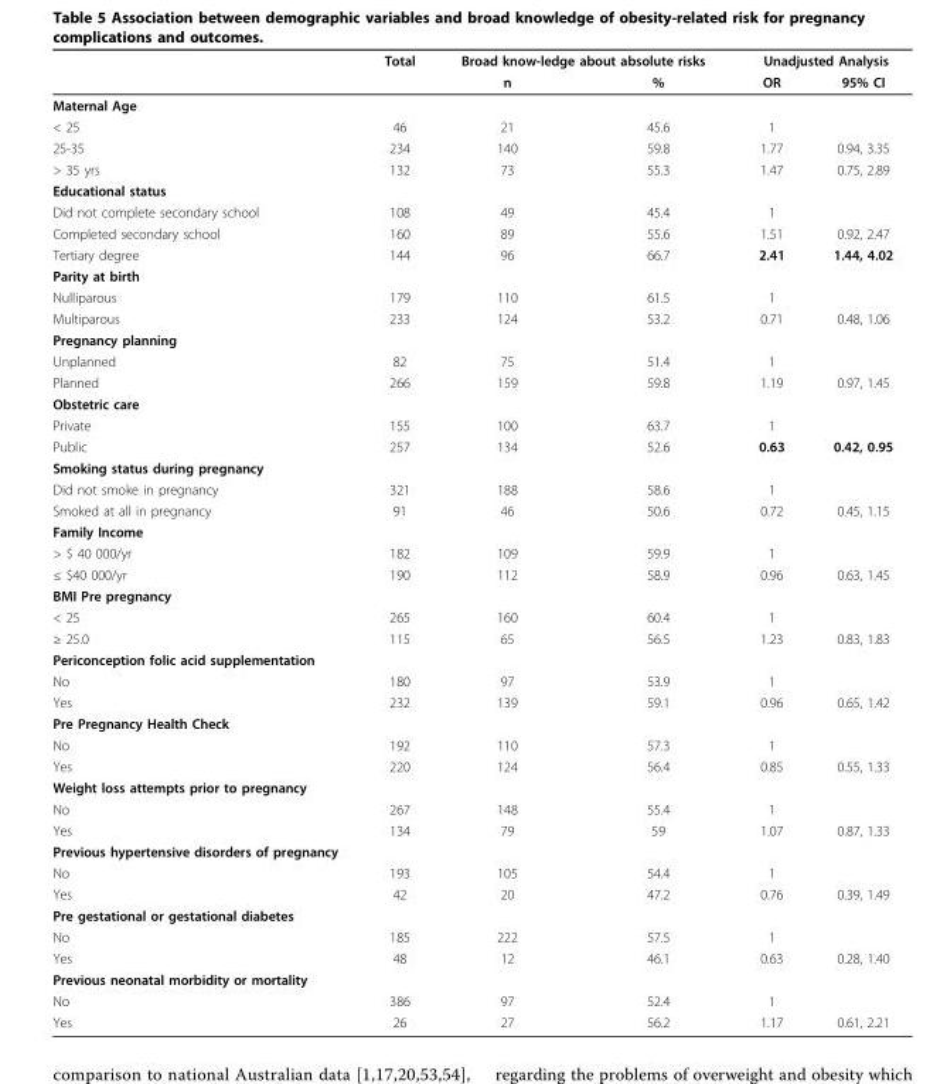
<table><thead><tr><td rowspan="2"></td><td rowspan="2">Total</td><td colspan="2">Broad know-ledge about absolute risks</td><td colspan="2">Unadjusted Analysis</td></tr><tr><td>n</td><td>%</td><td>OR</td><td>95% CI</td></tr></thead><tbody><tr><td colspan="6">Maternal Age</td></tr><tr><td>&lt; 25</td><td>46</td><td>21</td><td>45.6</td><td>1</td><td></td></tr><tr><td>25-35</td><td>234</td><td>140</td><td>59.8</td><td>1.77</td><td>0.94, 3.35</td></tr><tr><td>&gt; 35 yrs</td><td>132</td><td>73</td><td>55.3</td><td>1.47</td><td>0.75, 2.89</td></tr><tr><td colspan="6">Educational status</td></tr><tr><td>Did not complete secondary school</td><td>108</td><td>49</td><td>45.4</td><td>1</td><td></td></tr><tr><td>Completed secondary school</td><td>160</td><td>89</td><td>55.6</td><td>1.51</td><td>0.92, 2.47</td></tr><tr><td>Tertiary degree</td><td>144</td><td>96</td><td>66.7</td><td>2.41</td><td>1.44, 4.02</td></tr><tr><td colspan="6">Parity at birth</td></tr><tr><td>Nulliparous</td><td>179</td><td>110</td><td>61.5</td><td>1</td><td></td></tr><tr><td>Multiparous</td><td>233</td><td>124</td><td>53.2</td><td>0.71</td><td>0.48, 1.06</td></tr><tr><td colspan="6">Pregnancy planning</td></tr><tr><td>Unplanned</td><td>82</td><td>75</td><td>51.4</td><td>1</td><td></td></tr><tr><td>Planned</td><td>266</td><td>159</td><td>59.8</td><td>1.19</td><td>0.97, 1.45</td></tr><tr><td colspan="6">Obstetric care</td></tr><tr><td>Private</td><td>155</td><td>100</td><td>63.7</td><td>1</td><td></td></tr><tr><td>Public</td><td>257</td><td>134</td><td>52.6</td><td>0.63</td><td>0.42, 0.95</td></tr><tr><td colspan="6">Smoking status during pregnancy</td></tr><tr><td>Did not smoke in pregnancy</td><td>321</td><td>188</td><td>58.6</td><td>1</td><td></td></tr><tr><td>Smoked at all in pregnancy</td><td>91</td><td>46</td><td>50.6</td><td>0.72</td><td>0.45, 1.15</td></tr><tr><td colspan="6">Family Income</td></tr><tr><td>&gt; $ 40 000/yr</td><td>182</td><td>109</td><td>59.9</td><td>1</td><td></td></tr><tr><td>≤ $40 000/yr</td><td>190</td><td>112</td><td>58.9</td><td>0.96</td><td>0.63, 1.45</td></tr><tr><td colspan="6">BMI Pre pregnancy</td></tr><tr><td>&lt; 25</td><td>265</td><td>160</td><td>60.4</td><td>1</td><td></td></tr><tr><td>≥ 25.0</td><td>115</td><td>65</td><td>56.5</td><td>1.23</td><td>0.83, 1.83</td></tr><tr><td colspan="6">Periconception folic acid supplementation</td></tr><tr><td>No</td><td>180</td><td>97</td><td>53.9</td><td>1</td><td></td></tr><tr><td>Yes</td><td>232</td><td>139</td><td>59.1</td><td>0.96</td><td>0.65, 1.42</td></tr><tr><td colspan="6">Pre Pregnancy Health Check</td></tr><tr><td>No</td><td>192</td><td>110</td><td>57.3</td><td>1</td><td></td></tr><tr><td>Yes</td><td>220</td><td>124</td><td>56.4</td><td>0.85</td><td>0.55, 1.33</td></tr><tr><td colspan="6">Weight loss attempts prior to pregnancy</td></tr><tr><td>No</td><td>267</td><td>148</td><td>55.4</td><td>1</td><td></td></tr><tr><td>Yes</td><td>134</td><td>79</td><td>59</td><td>1.07</td><td>0.87, 1.33</td></tr><tr><td colspan="6">Previous hypertensive disorders of pregnancy</td></tr><tr><td>No</td><td>193</td><td>105</td><td>54.4</td><td>1</td><td></td></tr><tr><td>Yes</td><td>42</td><td>20</td><td>47.2</td><td>0.76</td><td>0.39, 1.49</td></tr><tr><td colspan="6">Pre gestational or gestational diabetes</td></tr><tr><td>No</td><td>185</td><td>222</td><td>57.5</td><td>1</td><td></td></tr><tr><td>Yes</td><td>48</td><td>12</td><td>46.1</td><td>0.63</td><td>0.28, 1.40</td></tr><tr><td colspan="6">Previous neonatal morbidity or mortality</td></tr><tr><td>No</td><td>386</td><td>97</td><td>52.4</td><td>1</td><td></td></tr><tr><td>Yes</td><td>26</td><td>27</td><td>56.2</td><td>1.17</td><td>0.61, 2.21</td></tr></tbody></table>